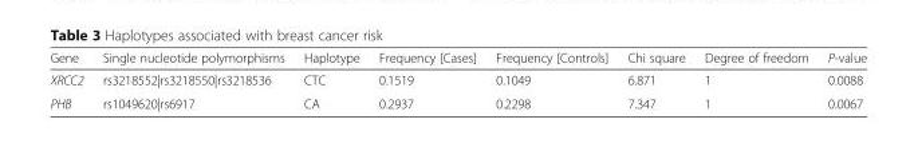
<table><thead><tr><td>Gene</td><td>Single nucleotide polymorphisms</td><td>Haplotype</td><td>Frequency [Cases]</td><td>Frequency [Controls]</td><td>Chi square</td><td>Degree of freedom</td><td>P-value</td></tr></thead><tbody><tr><td>XRCC2</td><td>rs3218552|rs3218550|rs3218536</td><td>CTC</td><td>0.1519</td><td>0.1049</td><td>6.871</td><td>1</td><td>0.0088</td></tr><tr><td>PHB</td><td>rs1049620|rs6917</td><td>CA</td><td>0.2937</td><td>0.2298</td><td>7.347</td><td>1</td><td>0.0067</td></tr></tbody></table>